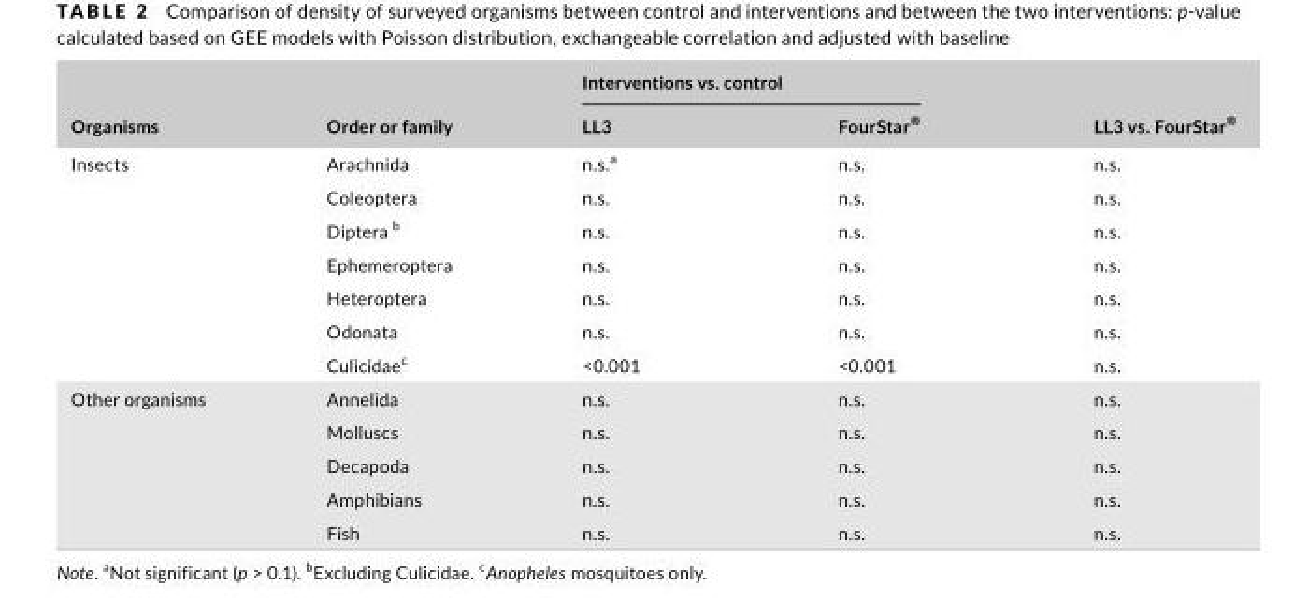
<table><thead><tr><td rowspan="2">Organisms</td><td rowspan="2">Order or family</td><td colspan="2">Interventions vs. control</td><td rowspan="2">LL3 vs. FourStar<sup>®</sup></td></tr><tr><td>LL3</td><td>FourStar<sup>®</sup></td></tr></thead><tbody><tr><td rowspan="7">Insects</td><td>Arachnida</td><td>n.s.<sup>a</sup></td><td>n.s.</td><td>n.s.</td></tr><tr><td>Coleoptera</td><td>n.s.</td><td>n.s.</td><td>n.s.</td></tr><tr><td>Diptera b</td><td>n.s.</td><td>n.s.</td><td>n.s.</td></tr><tr><td>Ephemeroptera</td><td>n.s.</td><td>n.s.</td><td>n.s.</td></tr><tr><td>Heteroptera</td><td>n.s.</td><td>n.s.</td><td>n.s.</td></tr><tr><td>Odonata</td><td>n.s.</td><td>n.s.</td><td>n.s.</td></tr><tr><td>Culicidae<sup>c</sup></td><td>&lt;0.001</td><td>&lt;0.001</td><td>n.s.</td></tr><tr><td rowspan="5">Other organisms</td><td>Annelida</td><td>n.s.</td><td>n.s.</td><td>n.s.</td></tr><tr><td>Molluscs</td><td>n.s.</td><td>n.s.</td><td>n.s.</td></tr><tr><td>Decapoda</td><td>n.s.</td><td>n.s.</td><td>n.s.</td></tr><tr><td>Amphibians</td><td>n.s.</td><td>n.s.</td><td>n.s.</td></tr><tr><td>Fish</td><td>n.s.</td><td>n.s.</td><td>n.s.</td></tr></tbody></table>